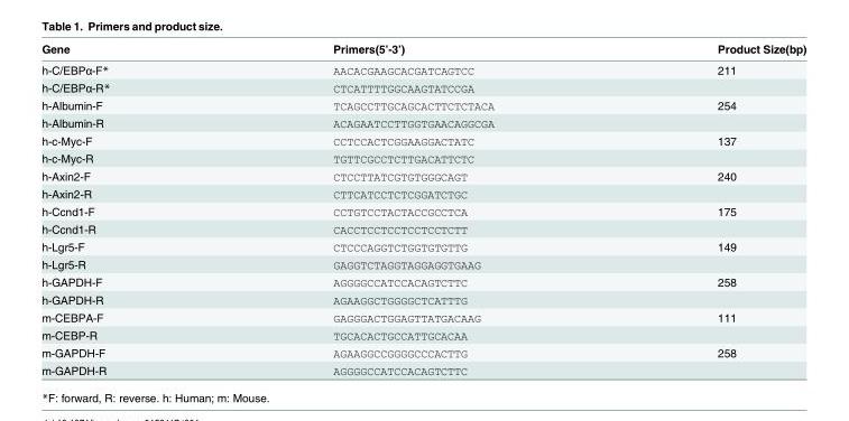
<table><thead><tr><td>Gene</td><td>Primers(5’-3’)</td><td>Product Size(bp)</td></tr></thead><tbody><tr><td>h-C/EBPα-F*</td><td>AACACGAAGCACGATCAGTCC</td><td>211</td></tr><tr><td>h-C/EBPα-R*</td><td>CTCATTTTGGCAAGTATCCGA</td><td></td></tr><tr><td>h-Albumin-F</td><td>TCAGCCTTGCAGCACTTCTCTACA</td><td>254</td></tr><tr><td>h-Albumin-R</td><td>ACAGAATCCTTGGTGAACAGGCGA</td><td></td></tr><tr><td>h-c-Myc-F</td><td>CCTCCACTCGGAAGGACTATC</td><td>137</td></tr><tr><td>h-c-Myc-R</td><td>TGTTCGCCTCTTGACATTCTC</td><td></td></tr><tr><td>h-Axin2-F</td><td>CTCCTTATCGTGTGGGCAGT</td><td>240</td></tr><tr><td>h-Axin2-R</td><td>CTTCATCCTCTCGGATCTGC</td><td></td></tr><tr><td>h-Ccnd1-F</td><td>CCTGTCCTACTACCGCCTCA</td><td>175</td></tr><tr><td>h-Ccnd1-R</td><td>CACCTCCTCCTCCTCCTCTT</td><td></td></tr><tr><td>h-Lgr5-F</td><td>CTCCCAGGTCTGGTGTGTTG</td><td>149</td></tr><tr><td>h-Lgr5-R</td><td>GAGGTCTAGGTAGGAGGTGAAG</td><td></td></tr><tr><td>h-GAPDH-F</td><td>AGGGGCCATCCACAGTCTTC</td><td>258</td></tr><tr><td>h-GAPDH-R</td><td>AGAAGGCTGGGGCTCATTTG</td><td></td></tr><tr><td>m-CEBPA-F</td><td>GAGGGACTGGAGTTATGACAAG</td><td>111</td></tr><tr><td>m-CEBP-R</td><td>TGCACACTGCCATTGCACAA</td><td></td></tr><tr><td>m-GAPDH-F</td><td>AGAAGGCCGGGGCCCACTTG</td><td>258</td></tr><tr><td>m-GAPDH-R</td><td>AGGGGCCATCCACAGTCTTC</td><td></td></tr></tbody></table>